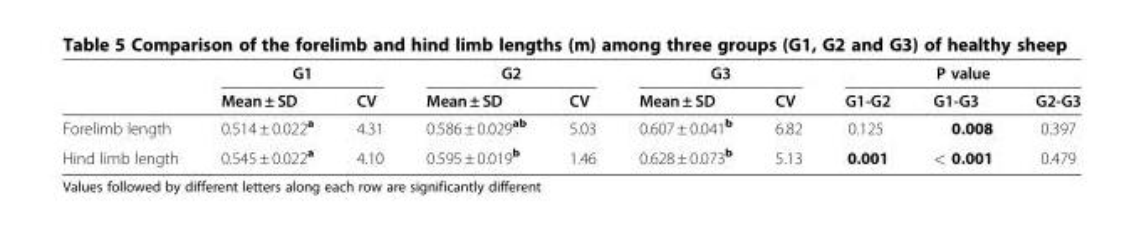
<table><thead><tr><td rowspan="2"></td><td colspan="2">G1</td><td colspan="2">G2</td><td colspan="2">G3</td><td colspan="3">P value</td></tr><tr><td>Mean ± SD</td><td>CV</td><td>Mean ± SD</td><td>CV</td><td>Mean ± SD</td><td>CV</td><td>G1-G2</td><td>G1-G3</td><td>G2-G3</td></tr></thead><tbody><tr><td>Forelimb length</td><td>0.514 ± 0.022<sup>a</sup></td><td>4.31</td><td>0.586 ± 0.029<sup>ab</sup></td><td>5.03</td><td>0.607 ± 0.041<sup>b</sup></td><td>6.82</td><td>0.125</td><td>0.008</td><td>0.397</td></tr><tr><td>Hind limb length</td><td>0.545 ± 0.022<sup>a</sup></td><td>4.10</td><td>0.595 ± 0.019<sup>b</sup></td><td>1.46</td><td>0.628 ± 0.073<sup>b</sup></td><td>5.13</td><td>0.001</td><td>&lt; 0.001</td><td>0.479</td></tr></tbody></table>